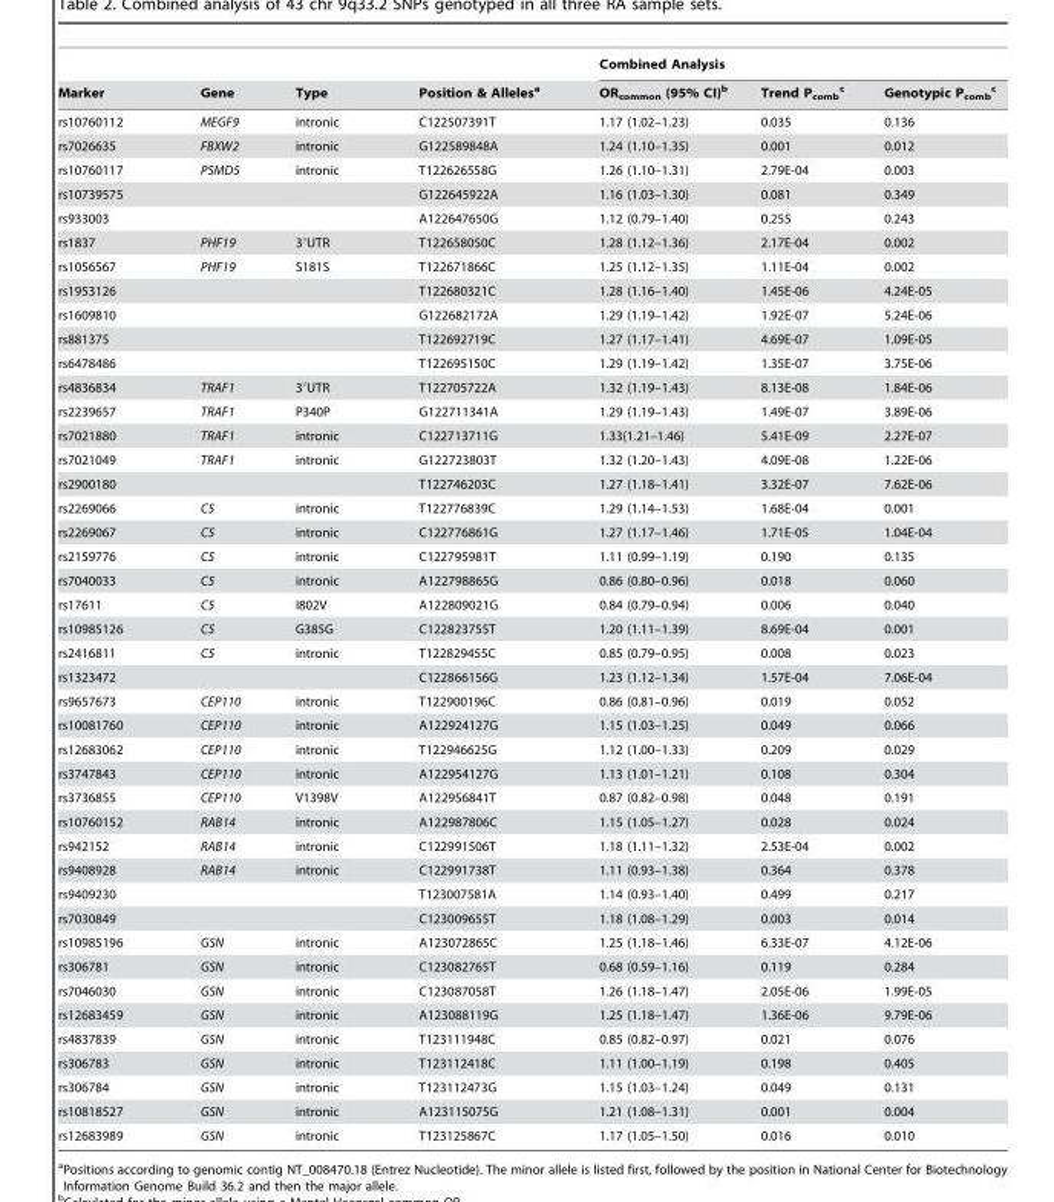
<table><thead><tr><td rowspan="2">Marker</td><td rowspan="2">Gene</td><td rowspan="2">Type</td><td rowspan="2">Position &amp; Alleles<sup>a</sup></td><td colspan="3">Combined Analysis</td></tr><tr><td>OR<sub>common</sub> (95% CI)<sup>b</sup></td><td>Trend P<sub>comb</sub> c</td><td>Genotypic P<sub>comb</sub> c</td></tr></thead><tbody><tr><td>rs10760112</td><td>MEGF9</td><td>intronic</td><td>C122507391T</td><td>1.17 (1.02–1.23)</td><td>0.035</td><td>0.136</td></tr><tr><td>rs7026635</td><td>FBXW2</td><td>intronic</td><td>G122589848A</td><td>1.24 (1.10–1.35)</td><td>0.001</td><td>0.012</td></tr><tr><td>rs10760117</td><td>PSMD5</td><td>intronic</td><td>T122626558G</td><td>1.26 (1.10–1.31)</td><td>2.79E-04</td><td>0.003</td></tr><tr><td>rs10739575</td><td></td><td></td><td>G122645922A</td><td>1.16 (1.03–1.30)</td><td>0.081</td><td>0.349</td></tr><tr><td>rs933003</td><td></td><td></td><td>A122647650G</td><td>1.12 (0.79–1.40)</td><td>0.255</td><td>0.243</td></tr><tr><td>rs1837</td><td>PHF19</td><td>3′UTR</td><td>T122658050C</td><td>1.28 (1.12–1.36)</td><td>2.17E-04</td><td>0.002</td></tr><tr><td>rs1056567</td><td>PHF19</td><td>S181S</td><td>T122671866C</td><td>1.25 (1.12–1.35)</td><td>1.11E-04</td><td>0.002</td></tr><tr><td>rs1953126</td><td></td><td></td><td>T122680321C</td><td>1.28 (1.16–1.40)</td><td>1.45E-06</td><td>4.24E-05</td></tr><tr><td>rs1609810</td><td></td><td></td><td>G122682172A</td><td>1.29 (1.19–1.42)</td><td>1.92E-07</td><td>5.24E-06</td></tr><tr><td>rs881375</td><td></td><td></td><td>T122692719C</td><td>1.27 (1.17–1.41)</td><td>4.69E-07</td><td>1.09E-05</td></tr><tr><td>rs6478486</td><td></td><td></td><td>T122695150C</td><td>1.29 (1.19–1.42)</td><td>1.35E-07</td><td>3.75E-06</td></tr><tr><td>rs4836834</td><td>TRAF1</td><td>3′UTR</td><td>T122705722A</td><td>1.32 (1.19–1.43)</td><td>8.13E-08</td><td>1.84E-06</td></tr><tr><td>rs2239657</td><td>TRAF1</td><td>P340P</td><td>G122711341A</td><td>1.29 (1.19–1.43)</td><td>1.49E-07</td><td>3.89E-06</td></tr><tr><td>rs7021880</td><td>TRAF1</td><td>intronic</td><td>C122713711G</td><td>1.33(1.21–1.46)</td><td>5.41E-09</td><td>2.27E-07</td></tr><tr><td>rs7021049</td><td>TRAF1</td><td>intronic</td><td>G122723803T</td><td>1.32 (1.20–1.43)</td><td>4.09E-08</td><td>1.22E-06</td></tr><tr><td>rs2900180</td><td></td><td></td><td>T122746203C</td><td>1.27 (1.18–1.41)</td><td>3.32E-07</td><td>7.62E-06</td></tr><tr><td>rs2269066</td><td>C5</td><td>intronic</td><td>T122776839C</td><td>1.29 (1.14–1.53)</td><td>1.68E-04</td><td>0.001</td></tr><tr><td>rs2269067</td><td>C5</td><td>intronic</td><td>C122776861G</td><td>1.27 (1.17–1.46)</td><td>1.71E-05</td><td>1.04E-04</td></tr><tr><td>rs2159776</td><td>C5</td><td>intronic</td><td>C122795981T</td><td>1.11 (0.99–1.19)</td><td>0.190</td><td>0.135</td></tr><tr><td>rs7040033</td><td>C5</td><td>intronic</td><td>A122798865G</td><td>0.86 (0.80–0.96)</td><td>0.018</td><td>0.060</td></tr><tr><td>rs17611</td><td>C5</td><td>I802V</td><td>A122809021G</td><td>0.84 (0.79–0.94)</td><td>0.006</td><td>0.040</td></tr><tr><td>rs10985126</td><td>C5</td><td>G385G</td><td>C122823755T</td><td>1.20 (1.11–1.39)</td><td>8.69E-04</td><td>0.001</td></tr><tr><td>rs2416811</td><td>C5</td><td>intronic</td><td>T122829455C</td><td>0.85 (0.79–0.95)</td><td>0.008</td><td>0.023</td></tr><tr><td>rs1323472</td><td></td><td></td><td>C122866156G</td><td>1.23 (1.12–1.34)</td><td>1.57E-04</td><td>7.06E-04</td></tr><tr><td>rs9657673</td><td>CEP110</td><td>intronic</td><td>T122900196C</td><td>0.86 (0.81–0.96)</td><td>0.019</td><td>0.052</td></tr><tr><td>rs10081760</td><td>CEP110</td><td>intronic</td><td>A122924127G</td><td>1.15 (1.03–1.25)</td><td>0.049</td><td>0.066</td></tr><tr><td>rs12683062</td><td>CEP110</td><td>intronic</td><td>T122946625G</td><td>1.12 (1.00–1.33)</td><td>0.209</td><td>0.029</td></tr><tr><td>rs3747843</td><td>CEP110</td><td>intronic</td><td>A122954127G</td><td>1.13 (1.01–1.21)</td><td>0.108</td><td>0.304</td></tr><tr><td>rs3736855</td><td>CEP110</td><td>V1398V</td><td>A122956841T</td><td>0.87 (0.82–0.98)</td><td>0.048</td><td>0.191</td></tr><tr><td>rs10760152</td><td>RAB14</td><td>intronic</td><td>A122987806C</td><td>1.15 (1.05–1.27)</td><td>0.028</td><td>0.024</td></tr><tr><td>rs942152</td><td>RAB14</td><td>intronic</td><td>C122991506T</td><td>1.18 (1.11–1.32)</td><td>2.53E-04</td><td>0.002</td></tr><tr><td>rs9408928</td><td>RAB14</td><td>intronic</td><td>C122991738T</td><td>1.11 (0.93–1.38)</td><td>0.364</td><td>0.378</td></tr><tr><td>rs9409230</td><td></td><td></td><td>T123007581A</td><td>1.14 (0.93–1.40)</td><td>0.499</td><td>0.217</td></tr><tr><td>rs7030849</td><td></td><td></td><td>C123009655T</td><td>1.18 (1.08–1.29)</td><td>0.003</td><td>0.014</td></tr><tr><td>rs10985196</td><td>GSN</td><td>intronic</td><td>A123072865C</td><td>1.25 (1.18–1.46)</td><td>6.33E-07</td><td>4.12E-06</td></tr><tr><td>rs306781</td><td>GSN</td><td>intronic</td><td>C123082765T</td><td>0.68 (0.59–1.16)</td><td>0.119</td><td>0.284</td></tr><tr><td>rs7046030</td><td>GSN</td><td>intronic</td><td>C123087058T</td><td>1.26 (1.18–1.47)</td><td>2.05E-06</td><td>1.99E-05</td></tr><tr><td>rs12683459</td><td>GSN</td><td>intronic</td><td>A123088119G</td><td>1.25 (1.18–1.47)</td><td>1.36E-06</td><td>9.79E-06</td></tr><tr><td>rs4837839</td><td>GSN</td><td>intronic</td><td>T123111948C</td><td>0.85 (0.82–0.97)</td><td>0.021</td><td>0.076</td></tr><tr><td>rs306783</td><td>GSN</td><td>intronic</td><td>T123112418C</td><td>1.11 (1.00–1.19)</td><td>0.198</td><td>0.405</td></tr><tr><td>rs306784</td><td>GSN</td><td>intronic</td><td>T123112473G</td><td>1.15 (1.03–1.24)</td><td>0.049</td><td>0.131</td></tr><tr><td>rs10818527</td><td>GSN</td><td>intronic</td><td>A123115075G</td><td>1.21 (1.08–1.31)</td><td>0.001</td><td>0.004</td></tr><tr><td>rs12683989</td><td>GSN</td><td>intronic</td><td>T123125867C</td><td>1.17 (1.05–1.50)</td><td>0.016</td><td>0.010</td></tr></tbody></table>